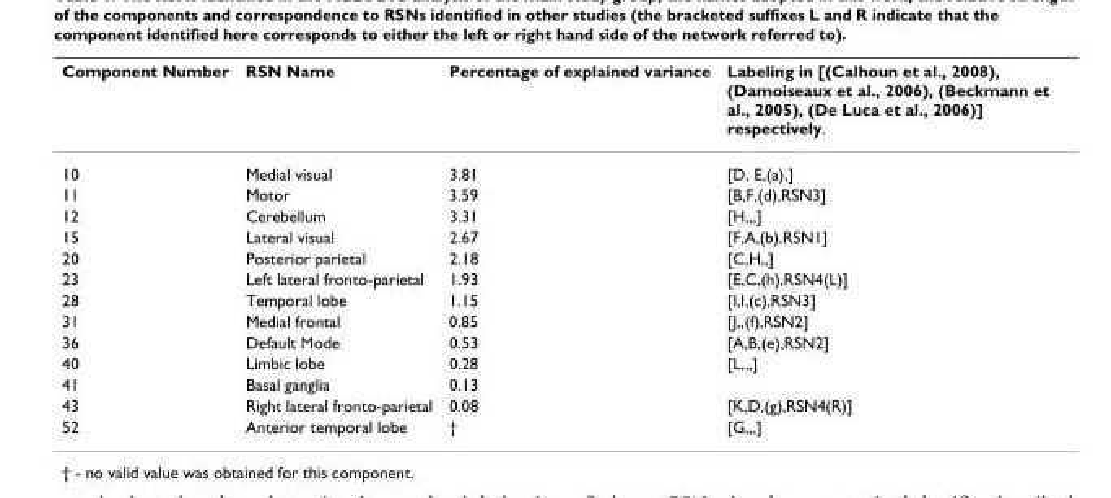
<table><thead><tr><td>Component Number</td><td>RSN Name</td><td>Percentage of explained variance</td><td>Labeling in [(Calhoun et al., 2008), (Damoiseaux et al., 2006), (Beckmann et al., 2005), (De Luca et al., 2006)] respectively.</td></tr></thead><tbody><tr><td>10</td><td>Medial visual</td><td>3.81</td><td>[D, E,(a),]</td></tr><tr><td>11</td><td>Motor</td><td>3.59</td><td>[B,F,(d),RSN3]</td></tr><tr><td>12</td><td>Cerebellum</td><td>3.31</td><td>[H,,,]</td></tr><tr><td>15</td><td>Lateral visual</td><td>2.67</td><td>[F,A,(b),RSN1]</td></tr><tr><td>20</td><td>Posterior parietal</td><td>2.18</td><td>[C,H,,]</td></tr><tr><td>23</td><td>Left lateral fronto-parietal</td><td>1.93</td><td>[E,C,(h),RSN4(L)]</td></tr><tr><td>28</td><td>Temporal lobe</td><td>1.15</td><td>[I,I,(c),RSN3]</td></tr><tr><td>31</td><td>Medial frontal</td><td>0.85</td><td>[J,,(f),RSN2]</td></tr><tr><td>36</td><td>Default Mode</td><td>0.53</td><td>[A,B,(e),RSN2]</td></tr><tr><td>40</td><td>Limbic lobe</td><td>0.28</td><td>[L,,,]</td></tr><tr><td>41</td><td>Basal ganglia</td><td>0.13</td><td></td></tr><tr><td>43</td><td>Right lateral fronto-parietal</td><td>0.08</td><td>[K,D,(g),RSN4(R)]</td></tr><tr><td>52</td><td>Anterior temporal lobe</td><td>†</td><td>[G,,,]</td></tr></tbody></table>